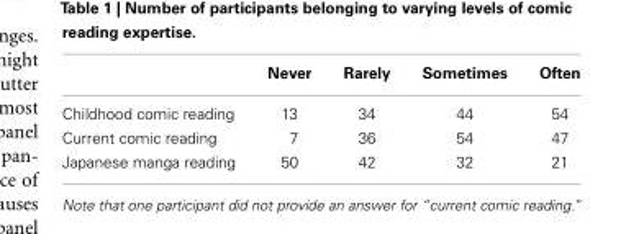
<table><thead><tr><td></td><td>Never</td><td>Rarely</td><td>Sometimes</td><td>Often</td></tr></thead><tbody><tr><td>Childhood comic reading</td><td>13</td><td>34</td><td>44</td><td>54</td></tr><tr><td>Current comic reading</td><td>7</td><td>36</td><td>54</td><td>47</td></tr><tr><td>Japanese manga reading</td><td>50</td><td>42</td><td>32</td><td>21</td></tr></tbody></table>